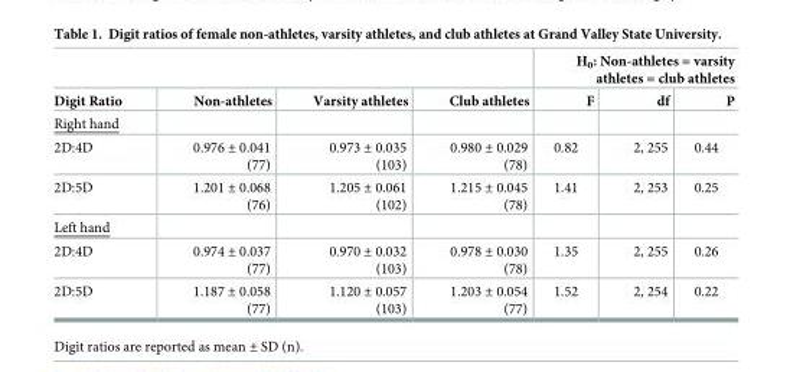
<table><thead><tr><td rowspan="2">Digit Ratio</td><td rowspan="2">Non-athletes</td><td rowspan="2">Varsity athletes</td><td rowspan="2">Club athletes</td><td colspan="3">H<sub>0</sub>: Non-athletes = varsity athletes = club athletes</td></tr><tr><td>F</td><td>df</td><td>P</td></tr></thead><tbody><tr><td colspan="7">Right hand</td></tr><tr><td>2D:4D</td><td>0.976 ± 0.041 (77)</td><td>0.973 ± 0.035 (103)</td><td>0.980 ± 0.029 (78)</td><td>0.82</td><td>2, 255</td><td>0.44</td></tr><tr><td>2D:5D</td><td>1.201 ± 0.068 (76)</td><td>1.205 ± 0.061 (102)</td><td>1.215 ± 0.045 (78)</td><td>1.41</td><td>2, 253</td><td>0.25</td></tr><tr><td colspan="7">Left hand</td></tr><tr><td>2D:4D</td><td>0.974 ± 0.037 (77)</td><td>0.970 ± 0.032 (103)</td><td>0.978 ± 0.030 (78)</td><td>1.35</td><td>2, 255</td><td>0.26</td></tr><tr><td>2D:5D</td><td>1.187 ± 0.058 (77)</td><td>1.120 ± 0.057 (103)</td><td>1.203 ± 0.054 (77)</td><td>1.52</td><td>2, 254</td><td>0.22</td></tr></tbody></table>